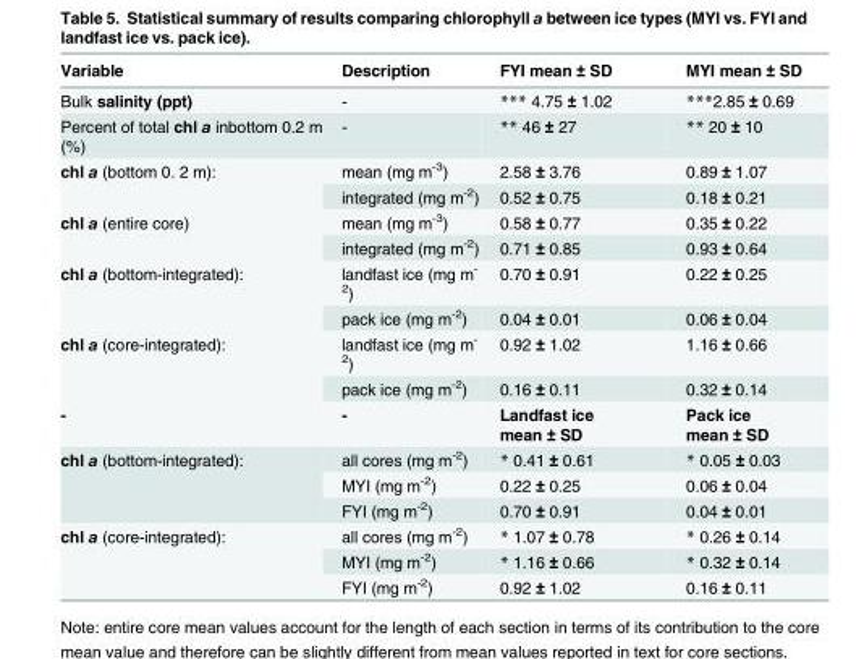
<table><thead><tr><td>Variable</td><td>Description</td><td>FYI mean ± SD</td><td>MYI mean ± SD</td></tr></thead><tbody><tr><td>Bulk salinity (ppt)</td><td>-</td><td>*** 4.75 ± 1.02</td><td>***2.85 ± 0.69</td></tr><tr><td>Percent of total chl a inbottom 0.2 m (%)</td><td>-</td><td>** 46 ± 27</td><td>** 20 ± 10</td></tr><tr><td rowspan="2">chl a (bottom 0. 2 m):</td><td>mean (mg m<sup>-3</sup>)</td><td>2.58 ± 3.76</td><td>0.89 ± 1.07</td></tr><tr><td>integrated (mg m<sup>-2</sup>)</td><td>0.52 ± 0.75</td><td>0.18 ± 0.21</td></tr><tr><td rowspan="2">chl a (entire core)</td><td>mean (mg m<sup>-3</sup>)</td><td>0.58 ± 0.77</td><td>0.35 ± 0.22</td></tr><tr><td>integrated (mg m<sup>-2</sup>)</td><td>0.71 ± 0.85</td><td>0.93 ± 0.64</td></tr><tr><td rowspan="2">chl a (bottom-integrated):</td><td>landfast ice (mg m<sup>- 2</sup>)</td><td>0.70 ± 0.91</td><td>0.22 ± 0.25</td></tr><tr><td>pack ice (mg m<sup>-2</sup>)</td><td>0.04 ± 0.01</td><td>0.06 ± 0.04</td></tr><tr><td rowspan="2">chl a (core-integrated):</td><td>landfast ice (mg m<sup>- 2</sup>)</td><td>0.92 ± 1.02</td><td>1.16 ± 0.66</td></tr><tr><td>pack ice (mg m<sup>-2</sup>)</td><td>0.16 ± 0.11</td><td>0.32 ± 0.14</td></tr><tr><td>-</td><td>-</td><td>Landfast ice mean ± SD</td><td>Pack ice mean ± SD</td></tr><tr><td rowspan="3">chl a (bottom-integrated):</td><td>all cores (mg m<sup>-2</sup>)</td><td>* 0.41 ± 0.61</td><td>* 0.05 ± 0.03</td></tr><tr><td>MYI (mg m<sup>-2</sup>)</td><td>0.22 ± 0.25</td><td>0.06 ± 0.04</td></tr><tr><td>FYI (mg m<sup>-2</sup>)</td><td>0.70 ± 0.91</td><td>0.04 ± 0.01</td></tr><tr><td rowspan="3">chl a (core-integrated):</td><td>all cores (mg m<sup>-2</sup>)</td><td>* 1.07 ± 0.78</td><td>* 0.26 ± 0.14</td></tr><tr><td>MYI (mg m<sup>-2</sup>)</td><td>* 1.16 ± 0.66</td><td>* 0.32 ± 0.14</td></tr><tr><td>FYI (mg m<sup>-2</sup>)</td><td>0.92 ± 1.02</td><td>0.16 ± 0.11</td></tr></tbody></table>